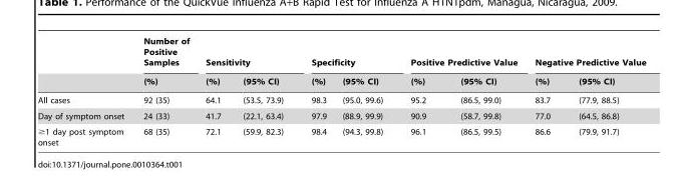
<table><thead><tr><td rowspan="2"></td><td rowspan="2">Number of Positive Samples (%)</td><td colspan="2">Sensitivity</td><td colspan="2">Specificity</td><td colspan="2">Positive Predictive Value</td><td colspan="2">Negative Predictive Value</td></tr><tr><td>(%)</td><td>(95% CI)</td><td>(%)</td><td>(95% CI)</td><td>(%)</td><td>(95% CI)</td><td>(%)</td><td>(95% CI)</td></tr></thead><tbody><tr><td>All cases</td><td>92 (35)</td><td>64.1</td><td>(53.5, 73.9)</td><td>98.3</td><td>(95.0, 99.6)</td><td>95.2</td><td>(86.5, 99.0)</td><td>83.7</td><td>(77.9, 88.5)</td></tr><tr><td>Day of symptom onset</td><td>24 (33)</td><td>41.7</td><td>(22.1, 63.4)</td><td>97.9</td><td>(88.9, 99.9)</td><td>90.9</td><td>(58.7, 99.8)</td><td>77.0</td><td>(64.5, 86.8)</td></tr><tr><td>≥1 day post symptom onset</td><td>68 (35)</td><td>72.1</td><td>(59.9, 82.3)</td><td>98.4</td><td>(94.3, 99.8)</td><td>96.1</td><td>(86.5, 99.5)</td><td>86.6</td><td>(79.9, 91.7)</td></tr></tbody></table>